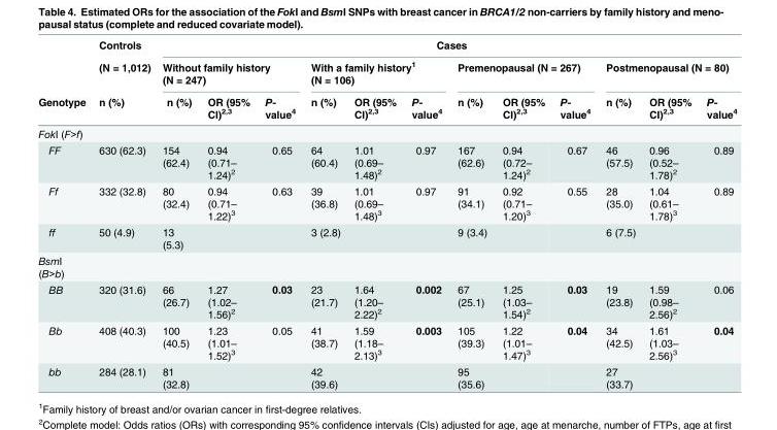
<table><thead><tr><td rowspan="3">Genotype</td><td rowspan="3">Controls (N = 1,012) n (%)</td><td colspan="12">Cases</td></tr><tr><td colspan="3">Without family history (N = 247)</td><td colspan="3">With a family history<sup>1</sup> (N = 106)</td><td colspan="3">Premenopausal (N = 267)</td><td colspan="3">Postmenopausal (N = 80)</td></tr><tr><td>n (%)</td><td>OR (95% CI)<sup>2,3</sup></td><td>P- value<sup>4</sup></td><td>n (%)</td><td>OR (95% CI)<sup>2,3</sup></td><td>P- value<sup>4</sup></td><td>n (%)</td><td>OR (95% CI)<sup>2,3</sup></td><td>P- value<sup>4</sup></td><td>n (%)</td><td>OR (95% CI)<sup>2,3</sup></td><td>P- value<sup>4</sup></td></tr></thead><tbody><tr><td colspan="14">FokI (F&gt;f)</td></tr><tr><td>FF</td><td>630 (62.3)</td><td>154 (62.4)</td><td>0.94 (0.71– 1.24)<sup>2</sup></td><td>0.65</td><td>64 (60.4)</td><td>1.01 (0.69– 1.48)<sup>2</sup></td><td>0.97</td><td>167 (62.6)</td><td>0.94 (0.72– 1.24)<sup>2</sup></td><td>0.67</td><td>46 (57.5)</td><td>0.96 (0.52– 1.78)<sup>2</sup></td><td>0.89</td></tr><tr><td>Ff</td><td>332 (32.8)</td><td>80 (32.4)</td><td>0.94 (0.71– 1.22)<sup>3</sup></td><td>0.63</td><td>39 (36.8)</td><td>1.01 (0.69– 1.48)<sup>3</sup></td><td>0.97</td><td>91 (34.1)</td><td>0.92 (0.71– 1.20)<sup>3</sup></td><td>0.55</td><td>28 (35.0)</td><td>1.04 (0.61– 1.78)<sup>3</sup></td><td>0.89</td></tr><tr><td>ff</td><td>50 (4.9)</td><td>13 (5.3)</td><td></td><td></td><td>3 (2.8)</td><td></td><td></td><td>9 (3.4)</td><td></td><td></td><td>6 (7.5)</td><td></td><td></td></tr><tr><td colspan="14">BsmI (B&gt;b)</td></tr><tr><td>BB</td><td>320 (31.6)</td><td>66 (26.7)</td><td>1.27 (1.02– 1.56)<sup>2</sup></td><td>0.03</td><td>23 (21.7)</td><td>1.64 (1.20– 2.22)<sup>2</sup></td><td>0.002</td><td>67 (25.1)</td><td>1.25 (1.03– 1.54)<sup>2</sup></td><td>0.03</td><td>19 (23.8)</td><td>1.59 (0.98– 2.56)<sup>2</sup></td><td>0.06</td></tr><tr><td>Bb</td><td>408 (40.3)</td><td>100 (40.5)</td><td>1.23 (1.01– 1.52)<sup>3</sup></td><td>0.05</td><td>41 (38.7)</td><td>1.59 (1.18– 2.13)<sup>3</sup></td><td>0.003</td><td>105 (39.3)</td><td>1.22 (1.01– 1.47)<sup>3</sup></td><td>0.04</td><td>34 (42.5)</td><td>1.61 (1.03– 2.56)<sup>3</sup></td><td>0.04</td></tr><tr><td>bb</td><td>284 (28.1)</td><td>81 (32.8)</td><td></td><td></td><td>42 (39.6)</td><td></td><td></td><td>95 (35.6)</td><td></td><td></td><td>27 (33.7)</td><td></td><td></td></tr></tbody></table>